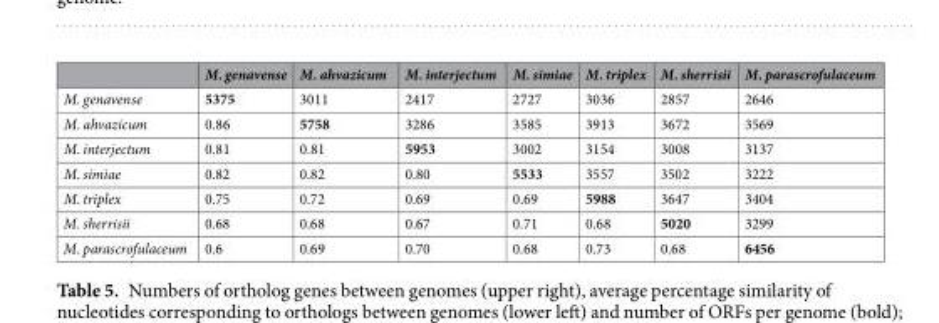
<table><thead><tr><td></td><td>M. genavense</td><td>M. ahvazicum</td><td>M. interjectum</td><td>M. simiae</td><td>M. triplex</td><td>M. sherrisii</td><td>M. parascrofulaceum</td></tr></thead><tbody><tr><td>M. genavense</td><td>5375</td><td>3011</td><td>2417</td><td>2727</td><td>3036</td><td>2857</td><td>2646</td></tr><tr><td>M. ahvazicum</td><td>0.86</td><td>5758</td><td>3286</td><td>3585</td><td>3913</td><td>3672</td><td>3569</td></tr><tr><td>M. interjectum</td><td>0.81</td><td>0.81</td><td>5953</td><td>3002</td><td>3154</td><td>3008</td><td>3137</td></tr><tr><td>M. simiae</td><td>0.82</td><td>0.82</td><td>0.80</td><td>5533</td><td>3557</td><td>3502</td><td>3222</td></tr><tr><td>M. triplex</td><td>0.75</td><td>0.72</td><td>0.69</td><td>0.69</td><td>5988</td><td>3647</td><td>3404</td></tr><tr><td>M. sherrisii</td><td>0.68</td><td>0.68</td><td>0.67</td><td>0.71</td><td>0.68</td><td>5020</td><td>3299</td></tr><tr><td>M. parascrofulaceum</td><td>0.6</td><td>0.69</td><td>0.70</td><td>0.68</td><td>0.73</td><td>0.68</td><td>6456</td></tr></tbody></table>